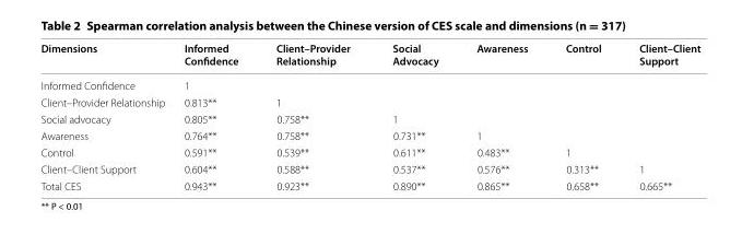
<table><thead><tr><td>Dimensions</td><td>Informed Confidence</td><td>Client–Provider Relationship</td><td>Social Advocacy</td><td>Awareness</td><td>Control</td><td>Client–Client Support</td></tr></thead><tbody><tr><td>Informed Confidence</td><td>1</td><td></td><td></td><td></td><td></td><td></td></tr><tr><td>Client–Provider Relationship</td><td>0.813**</td><td>1</td><td></td><td></td><td></td><td></td></tr><tr><td>Social advocacy</td><td>0.805**</td><td>0.758**</td><td>1</td><td></td><td></td><td></td></tr><tr><td>Awareness</td><td>0.764**</td><td>0.758**</td><td>0.731**</td><td>1</td><td></td><td></td></tr><tr><td>Control</td><td>0.591**</td><td>0.539**</td><td>0.611**</td><td>0.483**</td><td>1</td><td></td></tr><tr><td>Client–Client Support</td><td>0.604**</td><td>0.588**</td><td>0.537**</td><td>0.576**</td><td>0.313**</td><td>1</td></tr><tr><td>Total CES</td><td>0.943**</td><td>0.923**</td><td>0.890**</td><td>0.865**</td><td>0.658**</td><td>0.665**</td></tr></tbody></table>